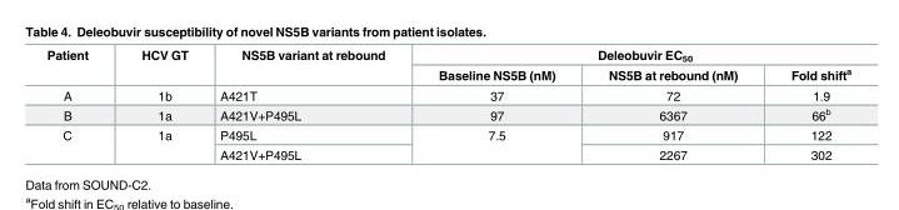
<table><thead><tr><td rowspan="2">Patient</td><td rowspan="2">HCV GT</td><td rowspan="2">NS5B variant at rebound</td><td colspan="3">Deleobuvir EC<sub>50</sub></td></tr><tr><td>Baseline NS5B (nM)</td><td>NS5B at rebound (nM)</td><td>Fold shift<sup>a</sup></td></tr></thead><tbody><tr><td>A</td><td>1b</td><td>A421T</td><td>37</td><td>72</td><td>1.9</td></tr><tr><td>B</td><td>1a</td><td>A421V+P495L</td><td>97</td><td>6367</td><td>66<sup>b</sup></td></tr><tr><td rowspan="2">C</td><td rowspan="2">1a</td><td>P495L</td><td rowspan="2">7.5</td><td>917</td><td>122</td></tr><tr><td>A421V+P495L</td><td>2267</td><td>302</td></tr></tbody></table>